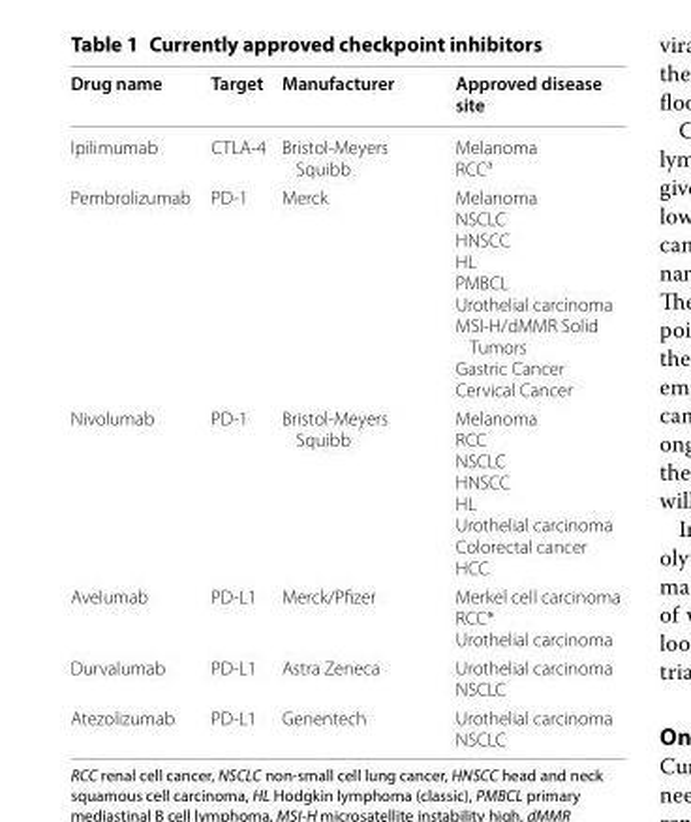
<table><thead><tr><td>Drug name</td><td>Target</td><td>Manufacturer</td><td>Approved disease site</td></tr></thead><tbody><tr><td>Ipilimumab</td><td>CTLA-4</td><td>Bristol-Meyers Squibb</td><td>Melanoma RCC <sup>a</sup></td></tr><tr><td>Pembrolizumab</td><td>PD-1</td><td>Merck</td><td>Melanoma NSCLC HNSCC HL PMBCL Urothelial carcinoma MSI-H/dMMR Solid Tumors Gastric Cancer Cervical Cancer</td></tr><tr><td>Nivolumab</td><td>PD-1</td><td>Bristol-Meyers Squibb</td><td>Melanoma RCC NSCLC HNSCC HL Urothelial carcinoma Colorectal cancer HCC</td></tr><tr><td>Avelumab</td><td>PD-L1</td><td>Merck/Pfizer</td><td>Merkel cell carcinoma RCC* Urothelial carcinoma</td></tr><tr><td>Durvalumab</td><td>PD-L1</td><td>Astra Zeneca</td><td>Urothelial carcinoma NSCLC</td></tr><tr><td>Atezolizumab</td><td>PD-L1</td><td>Genentech</td><td>Urothelial carcinoma NSCLC</td></tr></tbody></table>